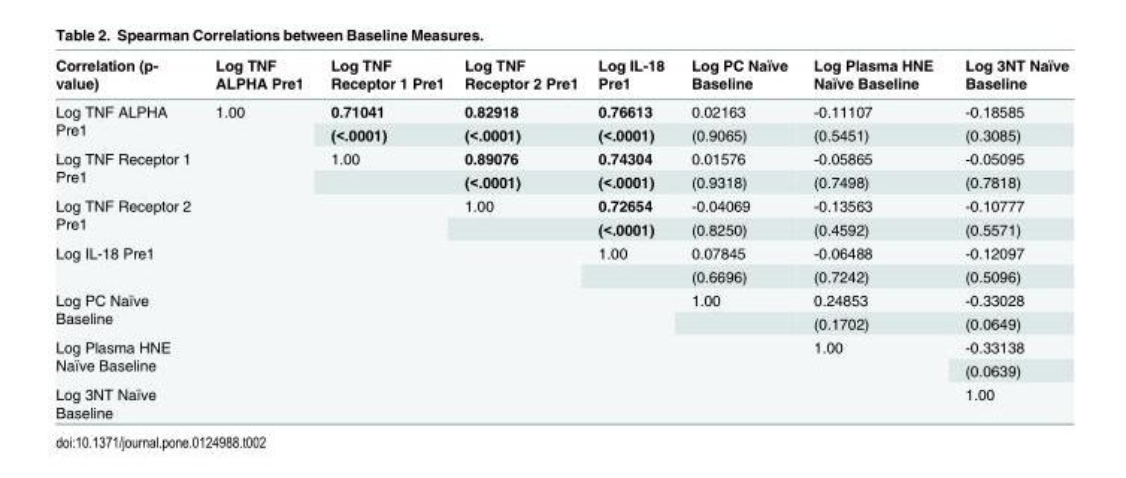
<table><thead><tr><td>Correlation (p- value)</td><td>Log TNF ALPHA Pre1</td><td>Log TNF Receptor 1 Pre1</td><td>Log TNF Receptor 2 Pre1</td><td>Log IL-18 Pre1</td><td>Log PC Naïve Baseline</td><td>Log Plasma HNE Naïve Baseline</td><td>Log 3NT Naïve Baseline</td></tr></thead><tbody><tr><td rowspan="2">Log TNF ALPHA Pre1</td><td rowspan="2">1.00</td><td>0.71041</td><td>0.82918</td><td>0.76613</td><td>0.02163</td><td>-0.11107</td><td>-0.18585</td></tr><tr><td>(&lt;.0001)</td><td>(&lt;.0001)</td><td>(&lt;.0001)</td><td>(0.9065)</td><td>(0.5451)</td><td>(0.3085)</td></tr><tr><td rowspan="2">Log TNF Receptor 1 Pre1</td><td rowspan="2"></td><td>1.00</td><td>0.89076</td><td>0.74304</td><td>0.01576</td><td>-0.05865</td><td>-0.05095</td></tr><tr><td></td><td>(&lt;.0001)</td><td>(&lt;.0001)</td><td>(0.9318)</td><td>(0.7498)</td><td>(0.7818)</td></tr><tr><td rowspan="2">Log TNF Receptor 2 Pre1</td><td rowspan="2"></td><td rowspan="2"></td><td>1.00</td><td>0.72654</td><td>-0.04069</td><td>-0.13563</td><td>-0.10777</td></tr><tr><td></td><td>(&lt;.0001)</td><td>(0.8250)</td><td>(0.4592)</td><td>(0.5571)</td></tr><tr><td rowspan="2">Log IL-18 Pre1</td><td rowspan="2"></td><td rowspan="2"></td><td rowspan="2"></td><td>1.00</td><td>0.07845</td><td>-0.06488</td><td>-0.12097</td></tr><tr><td></td><td>(0.6696)</td><td>(0.7242)</td><td>(0.5096)</td></tr><tr><td rowspan="2">Log PC Naïve Baseline</td><td rowspan="2"></td><td rowspan="2"></td><td rowspan="2"></td><td rowspan="2"></td><td>1.00</td><td>0.24853</td><td>-0.33028</td></tr><tr><td></td><td>(0.1702)</td><td>(0.0649)</td></tr><tr><td rowspan="2">Log Plasma HNE Naïve Baseline</td><td rowspan="2"></td><td rowspan="2"></td><td rowspan="2"></td><td rowspan="2"></td><td rowspan="2"></td><td rowspan="2">1.00</td><td>-0.33138</td></tr><tr><td>(0.0639)</td></tr><tr><td>Log 3NT Naïve Baseline</td><td></td><td></td><td></td><td></td><td></td><td></td><td>1.00</td></tr></tbody></table>